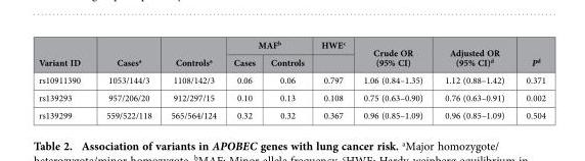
<table><thead><tr><td rowspan="2">Variant ID</td><td rowspan="2">Cases<sup>a</sup></td><td rowspan="2">Controls<sup>a</sup></td><td colspan="2">MAF<sup>b</sup></td><td rowspan="2">HWE<sup>c</sup></td><td rowspan="2">Crude OR (95% CI)</td><td rowspan="2">Adjusted OR (95% CI)<sup>d</sup></td><td rowspan="2">P<sup>d</sup></td></tr><tr><td>Cases</td><td>Controls</td></tr></thead><tbody><tr><td>rs10911390</td><td>1053/144/3</td><td>1108/142/3</td><td>0.06</td><td>0.06</td><td>0.797</td><td>1.06 (0.84–1.35)</td><td>1.12 (0.88–1.42)</td><td>0.371</td></tr><tr><td>rs139293</td><td>957/206/20</td><td>912/297/15</td><td>0.10</td><td>0.13</td><td>0.108</td><td>0.75 (0.63–0.90)</td><td>0.76 (0.63–0.91)</td><td>0.002</td></tr><tr><td>rs139299</td><td>559/522/118</td><td>565/564/124</td><td>0.32</td><td>0.32</td><td>0.367</td><td>0.96 (0.85–1.09)</td><td>0.96 (0.85–1.09)</td><td>0.504</td></tr></tbody></table>